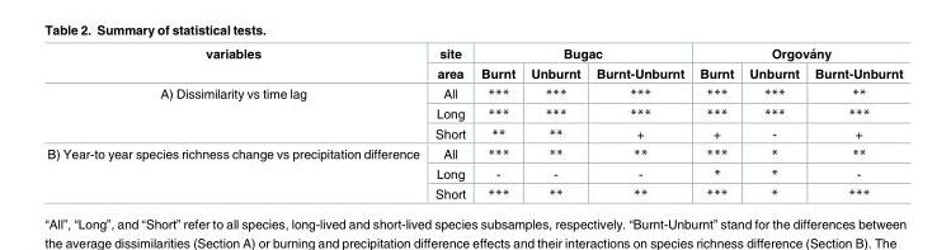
<table><thead><tr><td rowspan="2">variables</td><td rowspan="2">site area</td><td colspan="3">Bugac</td><td colspan="3">Orgova´ny</td></tr><tr><td>Burnt</td><td>Unburnt</td><td>Burnt-Unburnt</td><td>Burnt</td><td>Unburnt</td><td>Burnt-Unburnt</td></tr></thead><tbody><tr><td rowspan="3">A) Dissimilarity vs time lag</td><td>All</td><td>***</td><td>***</td><td>***</td><td>***</td><td>***</td><td>**</td></tr><tr><td>Long</td><td>***</td><td>***</td><td>***</td><td>***</td><td>***</td><td>***</td></tr><tr><td>Short</td><td>**</td><td>**</td><td>+</td><td>+</td><td>-</td><td>+</td></tr><tr><td rowspan="3">B) Year-to year species richness change vs precipitation difference</td><td>All</td><td>***</td><td>**</td><td>**</td><td>***</td><td>*</td><td>**</td></tr><tr><td>Long</td><td>-</td><td>-</td><td>-</td><td>*</td><td>*</td><td>-</td></tr><tr><td>Short</td><td>***</td><td>**</td><td>**</td><td>***</td><td>*</td><td>***</td></tr></tbody></table>